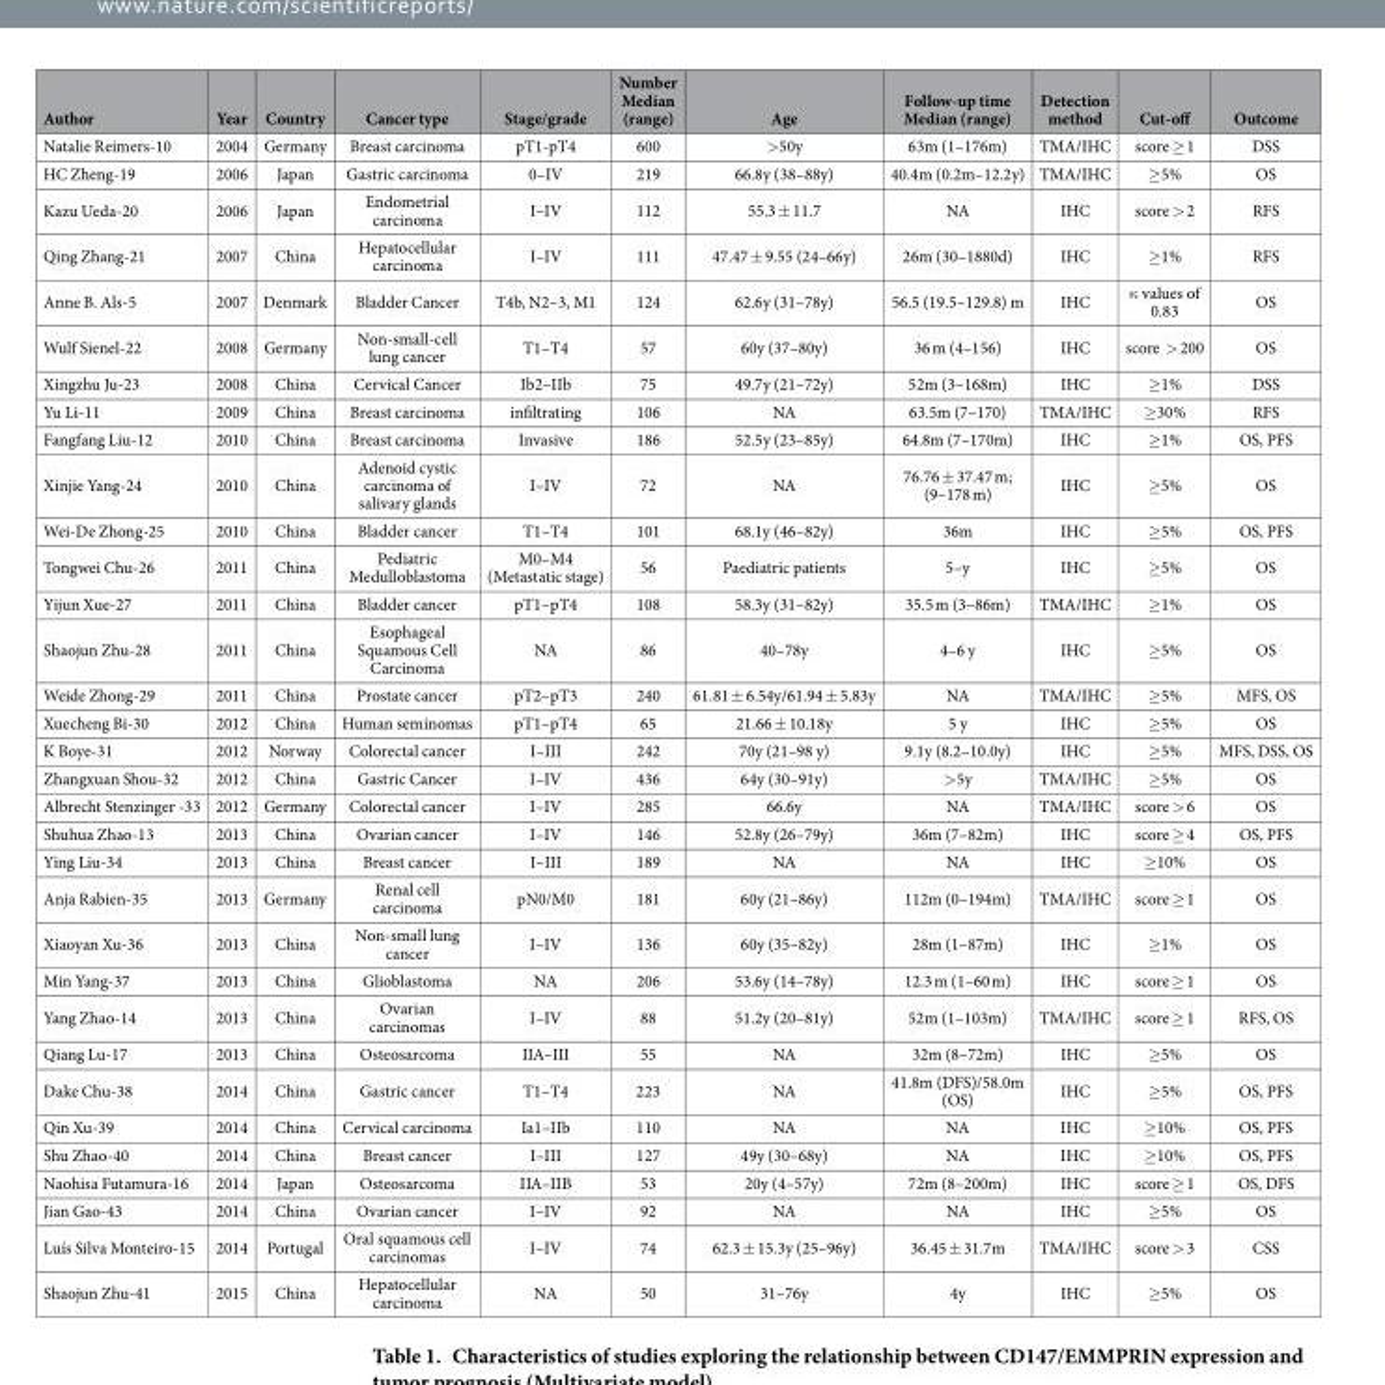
<table><thead><tr><td>Author</td><td>Year</td><td>Country</td><td>Cancer type</td><td>Stage/grade</td><td>Number Median (range)</td><td>Age</td><td>Follow-up time Median (range)</td><td>Detection method</td><td>Cut-off</td><td>Outcome</td></tr></thead><tbody><tr><td>Natalie Reimers-10</td><td>2004</td><td>Germany</td><td>Breast carcinoma</td><td>pT1-pT4</td><td>600</td><td>&gt; 50y</td><td>63m (1–176m)</td><td>TMA/IHC</td><td>score ≥ 1</td><td>DSS</td></tr><tr><td>HC Zheng-19</td><td>2006</td><td>Japan</td><td>Gastric carcinoma</td><td>0–IV</td><td>219</td><td>66.8y (38–88y)</td><td>40.4m (0.2m–12.2y)</td><td>TMA/IHC</td><td>≥ 5%</td><td>OS</td></tr><tr><td>Kazu Ueda-20</td><td>2006</td><td>Japan</td><td>Endometrial carcinoma</td><td>I–IV</td><td>112</td><td>55.3 ± 11.7</td><td>NA</td><td>IHC</td><td>score &gt; 2</td><td>RFS</td></tr><tr><td>Qing Zhang-21</td><td>2007</td><td>China</td><td>Hepatocellular carcinoma</td><td>I–IV</td><td>111</td><td>47.47 ± 9.55 (24–66y)</td><td>26m (30–1880d)</td><td>IHC</td><td>≥ 1%</td><td>RFS</td></tr><tr><td>Anne B. Als-5</td><td>2007</td><td>Denmark</td><td>Bladder Cancer</td><td>T4b, N2–3, M1</td><td>124</td><td>62.6y (31–78y)</td><td>56.5 (19.5–129.8) m</td><td>IHC</td><td>κ values of 0.83</td><td>OS</td></tr><tr><td>Wulf Sienel-22</td><td>2008</td><td>Germany</td><td>Non-small-cell lung cancer</td><td>T1–T4</td><td>57</td><td>60y (37–80y)</td><td>36 m (4–156)</td><td>IHC</td><td>score &gt; 200</td><td>OS</td></tr><tr><td>Xingzhu Ju-23</td><td>2008</td><td>China</td><td>Cervical Cancer</td><td>Ib2–IIb</td><td>75</td><td>49.7y (21–72y)</td><td>52m (3–168m)</td><td>IHC</td><td>≥ 1%</td><td>DSS</td></tr><tr><td>Yu Li-11</td><td>2009</td><td>China</td><td>Breast carcinoma</td><td>infiltrating</td><td>106</td><td>NA</td><td>63.5m (7–170)</td><td>TMA/IHC</td><td>≥ 30%</td><td>RFS</td></tr><tr><td>Fangfang Liu-12</td><td>2010</td><td>China</td><td>Breast carcinoma</td><td>Invasive</td><td>186</td><td>52.5y (23–85y)</td><td>64.8m (7–170m)</td><td>IHC</td><td>≥ 1%</td><td>OS, PFS</td></tr><tr><td>Xinjie Yang-24</td><td>2010</td><td>China</td><td>Adenoid cystic carcinoma of salivary glands</td><td>I–IV</td><td>72</td><td>NA</td><td>76.76 ± 37.47 m; (9–178 m)</td><td>IHC</td><td>≥ 5%</td><td>OS</td></tr><tr><td>Wei-De Zhong-25</td><td>2010</td><td>China</td><td>Bladder cancer</td><td>T1–T4</td><td>101</td><td>68.1y (46–82y)</td><td>36m</td><td>IHC</td><td>≥ 5%</td><td>OS, PFS</td></tr><tr><td>Tongwei Chu-26</td><td>2011</td><td>China</td><td>Pediatric Medulloblastoma</td><td>M0–M4 (Metastatic stage)</td><td>56</td><td>Paediatric patients</td><td>5–y</td><td>IHC</td><td>≥ 5%</td><td>OS</td></tr><tr><td>Yijun Xue-27</td><td>2011</td><td>China</td><td>Bladder cancer</td><td>pT1–pT4</td><td>108</td><td>58.3y (31–82y)</td><td>35.5 m (3–86m)</td><td>TMA/IHC</td><td>≥ 1%</td><td>OS</td></tr><tr><td>Shaojun Zhu-28</td><td>2011</td><td>China</td><td>Esophageal Squamous Cell Carcinoma</td><td>NA</td><td>86</td><td>40–78y</td><td>4–6 y</td><td>IHC</td><td>≥ 5%</td><td>OS</td></tr><tr><td>Weide Zhong-29</td><td>2011</td><td>China</td><td>Prostate cancer</td><td>pT2–pT3</td><td>240</td><td>61.81 ± 6.54y/61.94 ± 5.83y</td><td>NA</td><td>TMA/IHC</td><td>≥ 5%</td><td>MFS, OS</td></tr><tr><td>Xuecheng Bi-30</td><td>2012</td><td>China</td><td>Human seminomas</td><td>pT1–pT4</td><td>65</td><td>21.66 ± 10.18y</td><td>5 y</td><td>IHC</td><td>≥ 5%</td><td>OS</td></tr><tr><td>K Boye-31</td><td>2012</td><td>Norway</td><td>Colorectal cancer</td><td>I–III</td><td>242</td><td>70y (21–98 y)</td><td>9.1y (8.2–10.0y)</td><td>IHC</td><td>≥ 5%</td><td>MFS, DSS, OS</td></tr><tr><td>Zhangxuan Shou-32</td><td>2012</td><td>China</td><td>Gastric Cancer</td><td>I–IV</td><td>436</td><td>64y (30–91y)</td><td>&gt; 5y</td><td>TMA/IHC</td><td>≥ 5%</td><td>OS</td></tr><tr><td>Albrecht Stenzinger -33</td><td>2012</td><td>Germany</td><td>Colorectal cancer</td><td>I–IV</td><td>285</td><td>66.6y</td><td>NA</td><td>TMA/IHC</td><td>score &gt; 6</td><td>OS</td></tr><tr><td>Shuhua Zhao-13</td><td>2013</td><td>China</td><td>Ovarian cancer</td><td>I–IV</td><td>146</td><td>52.8y (26–79y)</td><td>36m (7–82m)</td><td>IHC</td><td>score ≥ 4</td><td>OS, PFS</td></tr><tr><td>Ying Liu-34</td><td>2013</td><td>China</td><td>Breast cancer</td><td>I–III</td><td>189</td><td>NA</td><td>NA</td><td>IHC</td><td>≥ 10%</td><td>OS</td></tr><tr><td>Anja Rabien-35</td><td>2013</td><td>Germany</td><td>Renal cell carcinoma</td><td>pN0/M0</td><td>181</td><td>60y (21–86y)</td><td>112m (0–194m)</td><td>TMA/IHC</td><td>score ≥ 1</td><td>OS</td></tr><tr><td>Xiaoyan Xu-36</td><td>2013</td><td>China</td><td>Non-small lung cancer</td><td>I–IV</td><td>136</td><td>60y (35–82y)</td><td>28m (1–87m)</td><td>IHC</td><td>≥ 1%</td><td>OS</td></tr><tr><td>Min Yang-37</td><td>2013</td><td>China</td><td>Glioblastoma</td><td>NA</td><td>206</td><td>53.6y (14–78y)</td><td>12.3 m (1–60 m)</td><td>IHC</td><td>score ≥ 1</td><td>OS</td></tr><tr><td>Yang Zhao-14</td><td>2013</td><td>China</td><td>Ovarian carcinomas</td><td>I–IV</td><td>88</td><td>51.2y (20–81y)</td><td>52m (1–103m)</td><td>TMA/IHC</td><td>score ≥ 1</td><td>RFS, OS</td></tr><tr><td>Qiang Lu-17</td><td>2013</td><td>China</td><td>Osteosarcoma</td><td>IIA–III</td><td>55</td><td>NA</td><td>32m (8–72m)</td><td>IHC</td><td>≥ 5%</td><td>OS</td></tr><tr><td>Dake Chu-38</td><td>2014</td><td>China</td><td>Gastric cancer</td><td>T1–T4</td><td>223</td><td>NA</td><td>41.8m (DFS)/58.0m (OS)</td><td>IHC</td><td>≥ 5%</td><td>OS, PFS</td></tr><tr><td>Qin Xu-39</td><td>2014</td><td>China</td><td>Cervical carcinoma</td><td>Ia1–IIb</td><td>110</td><td>NA</td><td>NA</td><td>IHC</td><td>≥ 10%</td><td>OS, PFS</td></tr><tr><td>Shu Zhao-40</td><td>2014</td><td>China</td><td>Breast cancer</td><td>I–III</td><td>127</td><td>49y (30–68y)</td><td>NA</td><td>IHC</td><td>≥ 10%</td><td>OS, PFS</td></tr><tr><td>Naohisa Futamura-16</td><td>2014</td><td>Japan</td><td>Osteosarcoma</td><td>IIA–IIB</td><td>53</td><td>20y (4–57y)</td><td>72m (8–200m)</td><td>IHC</td><td>score ≥ 1</td><td>OS, DFS</td></tr><tr><td>Jian Gao-43</td><td>2014</td><td>China</td><td>Ovarian cancer</td><td>I–IV</td><td>92</td><td>NA</td><td>NA</td><td>IHC</td><td>≥ 5%</td><td>OS</td></tr><tr><td>Luís Silva Monteiro-15</td><td>2014</td><td>Portugal</td><td>Oral squamous cell carcinomas</td><td>I–IV</td><td>74</td><td>62.3 ± 15.3y (25–96y)</td><td>36.45 ± 31.7m</td><td>TMA/IHC</td><td>score &gt; 3</td><td>CSS</td></tr><tr><td>Shaojun Zhu-41</td><td>2015</td><td>China</td><td>Hepatocellular carcinoma</td><td>NA</td><td>50</td><td>31–76y</td><td>4y</td><td>IHC</td><td>≥ 5%</td><td>OS</td></tr></tbody></table>